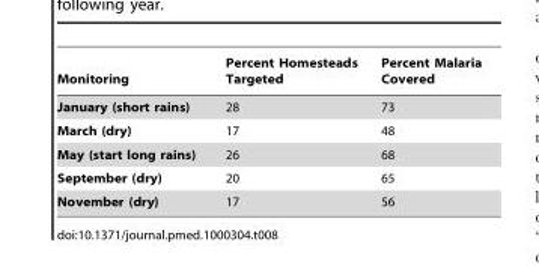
<table><thead><tr><td>Monitoring</td><td>Percent Homesteads Targeted</td><td>Percent Malaria Covered</td></tr></thead><tbody><tr><td>January (short rains)</td><td>28</td><td>73</td></tr><tr><td>March (dry)</td><td>17</td><td>48</td></tr><tr><td>May (start long rains)</td><td>26</td><td>68</td></tr><tr><td>September (dry)</td><td>20</td><td>65</td></tr><tr><td>November (dry)</td><td>17</td><td>56</td></tr></tbody></table>